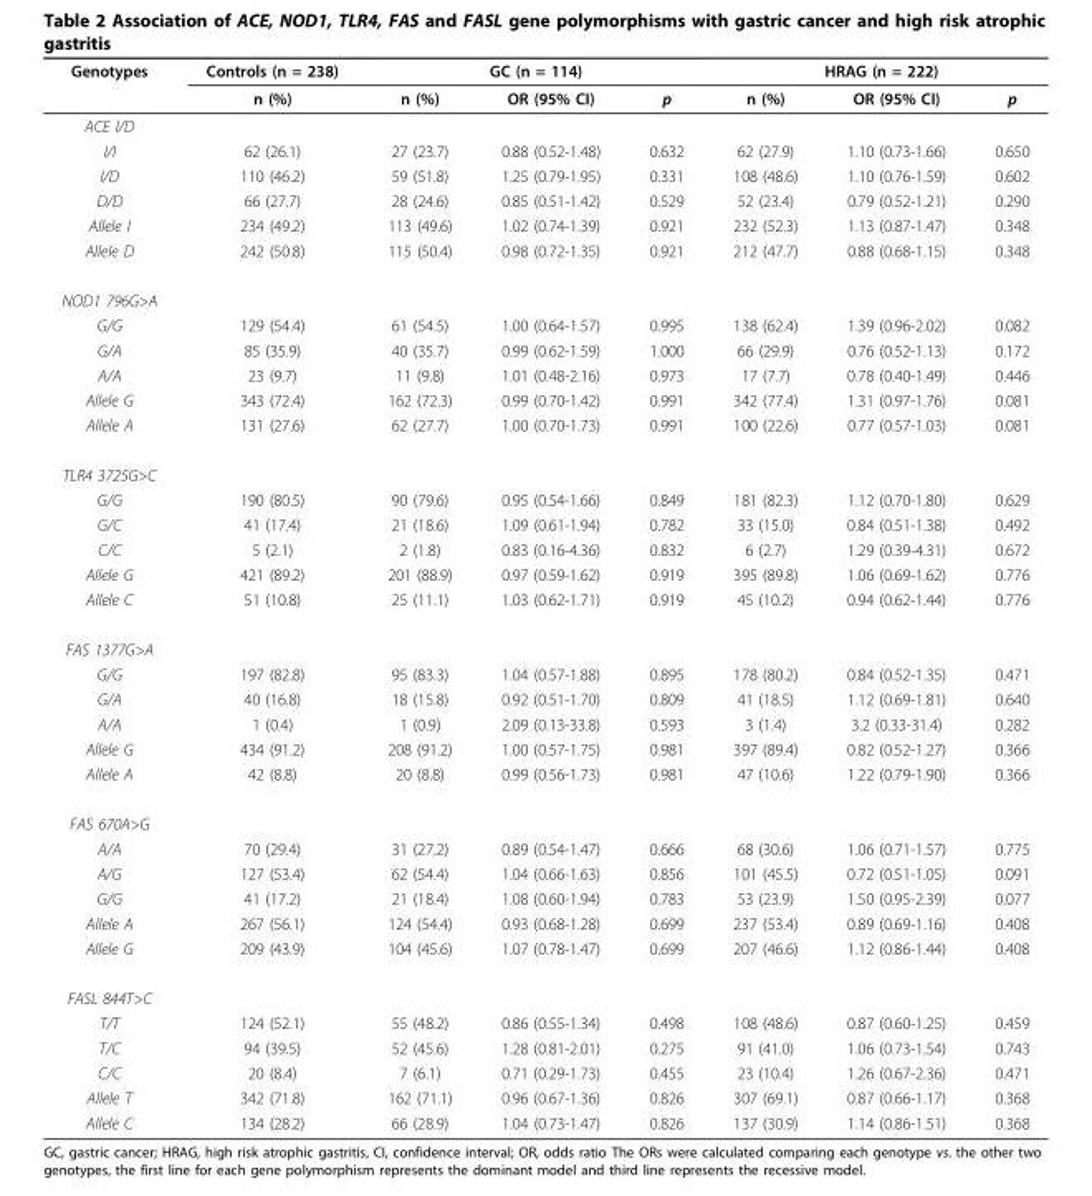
<table><thead><tr><td rowspan="2">Genotypes</td><td rowspan="2">Controls (n = 238) n (%)</td><td colspan="3">GC (n = 114)</td><td colspan="3">HRAG (n = 222)</td></tr><tr><td>n (%)</td><td>OR (95% CI)</td><td>p</td><td>n (%)</td><td>OR (95% CI)</td><td>p</td></tr></thead><tbody><tr><td colspan="8">ACE I/D</td></tr><tr><td>I/I</td><td>62 (26.1)</td><td>27 (23.7)</td><td>0.88 (0.52-1.48)</td><td>0.632</td><td>62 (27.9)</td><td>1.10 (0.73-1.66)</td><td>0.650</td></tr><tr><td>I/D</td><td>110 (46.2)</td><td>59 (51.8)</td><td>1.25 (0.79-1.95)</td><td>0.331</td><td>108 (48.6)</td><td>1.10 (0.76-1.59)</td><td>0.602</td></tr><tr><td>D/D</td><td>66 (27.7)</td><td>28 (24.6)</td><td>0.85 (0.51-1.42)</td><td>0.529</td><td>52 (23.4)</td><td>0.79 (0.52-1.21)</td><td>0.290</td></tr><tr><td>Allele I</td><td>234 (49.2)</td><td>113 (49.6)</td><td>1.02 (0.74-1.39)</td><td>0.921</td><td>232 (52.3)</td><td>1.13 (0.87-1.47)</td><td>0.348</td></tr><tr><td>Allele D</td><td>242 (50.8)</td><td>115 (50.4)</td><td>0.98 (0.72-1.35)</td><td>0.921</td><td>212 (47.7)</td><td>0.88 (0.68-1.15)</td><td>0.348</td></tr><tr><td colspan="8">NOD1 796G&gt;A</td></tr><tr><td>G/G</td><td>129 (54.4)</td><td>61 (54.5)</td><td>1.00 (0.64-1.57)</td><td>0.995</td><td>138 (62.4)</td><td>1.39 (0.96-2.02)</td><td>0.082</td></tr><tr><td>G/A</td><td>85 (35.9)</td><td>40 (35.7)</td><td>0.99 (0.62-1.59)</td><td>1.000</td><td>66 (29.9)</td><td>0.76 (0.52-1.13)</td><td>0.172</td></tr><tr><td>A/A</td><td>23 (9.7)</td><td>11 (9.8)</td><td>1.01 (0.48-2.16)</td><td>0.973</td><td>17 (7.7)</td><td>0.78 (0.40-1.49)</td><td>0.446</td></tr><tr><td>Allele G</td><td>343 (72.4)</td><td>162 (72.3)</td><td>0.99 (0.70-1.42)</td><td>0.991</td><td>342 (77.4)</td><td>1.31 (0.97-1.76)</td><td>0.081</td></tr><tr><td>Allele A</td><td>131 (27.6)</td><td>62 (27.7)</td><td>1.00 (0.70-1.73)</td><td>0.991</td><td>100 (22.6)</td><td>0.77 (0.57-1.03)</td><td>0.081</td></tr><tr><td colspan="8">TLR4 3725G&gt;C</td></tr><tr><td>G/G</td><td>190 (80.5)</td><td>90 (79.6)</td><td>0.95 (0.54-1.66)</td><td>0.849</td><td>181 (82.3)</td><td>1.12 (0.70-1.80)</td><td>0.629</td></tr><tr><td>G/C</td><td>41 (17.4)</td><td>21 (18.6)</td><td>1.09 (0.61-1.94)</td><td>0.782</td><td>33 (15.0)</td><td>0.84 (0.51-1.38)</td><td>0.492</td></tr><tr><td>C/C</td><td>5 (2.1)</td><td>2 (1.8)</td><td>0.83 (0.16-4.36)</td><td>0.832</td><td>6 (2.7)</td><td>1.29 (0.39-4.31)</td><td>0.672</td></tr><tr><td>Allele G</td><td>421 (89.2)</td><td>201 (88.9)</td><td>0.97 (0.59-1.62)</td><td>0.919</td><td>395 (89.8)</td><td>1.06 (0.69-1.62)</td><td>0.776</td></tr><tr><td>Allele C</td><td>51 (10.8)</td><td>25 (11.1)</td><td>1.03 (0.62-1.71)</td><td>0.919</td><td>45 (10.2)</td><td>0.94 (0.62-1.44)</td><td>0.776</td></tr><tr><td colspan="8">FAS 1377G&gt;A</td></tr><tr><td>G/G</td><td>197 (82.8)</td><td>95 (83.3)</td><td>1.04 (0.57-1.88)</td><td>0.895</td><td>178 (80.2)</td><td>0.84 (0.52-1.35)</td><td>0.471</td></tr><tr><td>G/A</td><td>40 (16.8)</td><td>18 (15.8)</td><td>0.92 (0.51-1.70)</td><td>0.809</td><td>41 (18.5)</td><td>1.12 (0.69-1.81)</td><td>0.640</td></tr><tr><td>A/A</td><td>1 (0.4)</td><td>1 (0.9)</td><td>2.09 (0.13-33.8)</td><td>0.593</td><td>3 (1.4)</td><td>3.2 (0.33-31.4)</td><td>0.282</td></tr><tr><td>Allele G</td><td>434 (91.2)</td><td>208 (91.2)</td><td>1.00 (0.57-1.75)</td><td>0.981</td><td>397 (89.4)</td><td>0.82 (0.52-1.27)</td><td>0.366</td></tr><tr><td>Allele A</td><td>42 (8.8)</td><td>20 (8.8)</td><td>0.99 (0.56-1.73)</td><td>0.981</td><td>47 (10.6)</td><td>1.22 (0.79-1.90)</td><td>0.366</td></tr><tr><td colspan="8">FAS 670A&gt;G</td></tr><tr><td>A/A</td><td>70 (29.4)</td><td>31 (27.2)</td><td>0.89 (0.54-1.47)</td><td>0.666</td><td>68 (30.6)</td><td>1.06 (0.71-1.57)</td><td>0.775</td></tr><tr><td>A/G</td><td>127 (53.4)</td><td>62 (54.4)</td><td>1.04 (0.66-1.63)</td><td>0.856</td><td>101 (45.5)</td><td>0.72 (0.51-1.05)</td><td>0.091</td></tr><tr><td>G/G</td><td>41 (17.2)</td><td>21 (18.4)</td><td>1.08 (0.60-1.94)</td><td>0.783</td><td>53 (23.9)</td><td>1.50 (0.95-2.39)</td><td>0.077</td></tr><tr><td>Allele A</td><td>267 (56.1)</td><td>124 (54.4)</td><td>0.93 (0.68-1.28)</td><td>0.699</td><td>237 (53.4)</td><td>0.89 (0.69-1.16)</td><td>0.408</td></tr><tr><td>Allele G</td><td>209 (43.9)</td><td>104 (45.6)</td><td>1.07 (0.78-1.47)</td><td>0.699</td><td>207 (46.6)</td><td>1.12 (0.86-1.44)</td><td>0.408</td></tr><tr><td colspan="8">FASL 844T&gt;C</td></tr><tr><td>T/T</td><td>124 (52.1)</td><td>55 (48.2)</td><td>0.86 (0.55-1.34)</td><td>0.498</td><td>108 (48.6)</td><td>0.87 (0.60-1.25)</td><td>0.459</td></tr><tr><td>T/C</td><td>94 (39.5)</td><td>52 (45.6)</td><td>1.28 (0.81-2.01)</td><td>0.275</td><td>91 (41.0)</td><td>1.06 (0.73-1.54)</td><td>0.743</td></tr><tr><td>C/C</td><td>20 (8.4)</td><td>7 (6.1)</td><td>0.71 (0.29-1.73)</td><td>0.455</td><td>23 (10.4)</td><td>1.26 (0.67-2.36)</td><td>0.471</td></tr><tr><td>Allele T</td><td>342 (71.8)</td><td>162 (71.1)</td><td>0.96 (0.67-1.36)</td><td>0.826</td><td>307 (69.1)</td><td>0.87 (0.66-1.17)</td><td>0.368</td></tr><tr><td>Allele C</td><td>134 (28.2)</td><td>66 (28.9)</td><td>1.04 (0.73-1.47)</td><td>0.826</td><td>137 (30.9)</td><td>1.14 (0.86-1.51)</td><td>0.368</td></tr></tbody></table>